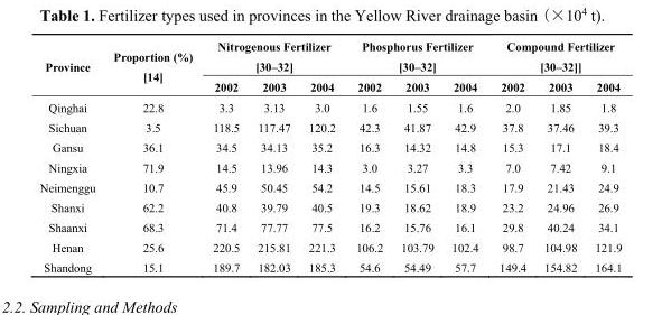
<table><thead><tr><td rowspan="2">Province</td><td rowspan="2">Proportion (%) [14]</td><td colspan="3">Nitrogenous Fertilizer [30–32]</td><td colspan="3">Phosphorus Fertilizer [30–32]</td><td colspan="3">Compound Fertilizer [30–32]]</td></tr><tr><td>2002</td><td>2003</td><td>2004</td><td>2002</td><td>2003</td><td>2004</td><td>2002</td><td>2003</td><td>2004</td></tr></thead><tbody><tr><td>Qinghai</td><td>22.8</td><td>3.3</td><td>3.13</td><td>3.0</td><td>1.6</td><td>1.55</td><td>1.6</td><td>2.0</td><td>1.85</td><td>1.8</td></tr><tr><td>Sichuan</td><td>3.5</td><td>118.5</td><td>117.47</td><td>120.2</td><td>42.3</td><td>41.87</td><td>42.9</td><td>37.8</td><td>37.46</td><td>39.3</td></tr><tr><td>Gansu</td><td>36.1</td><td>34.5</td><td>34.13</td><td>35.2</td><td>16.3</td><td>14.32</td><td>14.8</td><td>15.3</td><td>17.1</td><td>18.4</td></tr><tr><td>Ningxia</td><td>71.9</td><td>14.5</td><td>13.96</td><td>14.3</td><td>3.0</td><td>3.27</td><td>3.3</td><td>7.0</td><td>7.42</td><td>9.1</td></tr><tr><td>Neimenggu</td><td>10.7</td><td>45.9</td><td>50.45</td><td>54.2</td><td>14.5</td><td>15.61</td><td>18.3</td><td>17.9</td><td>21.43</td><td>24.9</td></tr><tr><td>Shanxi</td><td>62.2</td><td>40.8</td><td>39.79</td><td>40.5</td><td>19.3</td><td>18.62</td><td>18.9</td><td>23.2</td><td>24.96</td><td>26.9</td></tr><tr><td>Shaanxi</td><td>68.3</td><td>71.4</td><td>77.77</td><td>77.5</td><td>16.2</td><td>15.76</td><td>16.1</td><td>29.8</td><td>40.24</td><td>34.1</td></tr><tr><td>Henan</td><td>25.6</td><td>220.5</td><td>215.81</td><td>221.3</td><td>106.2</td><td>103.79</td><td>102.4</td><td>98.7</td><td>104.98</td><td>121.9</td></tr><tr><td>Shandong</td><td>15.1</td><td>189.7</td><td>182.03</td><td>185.3</td><td>54.6</td><td>54.49</td><td>57.7</td><td>149.4</td><td>154.82</td><td>164.1</td></tr></tbody></table>